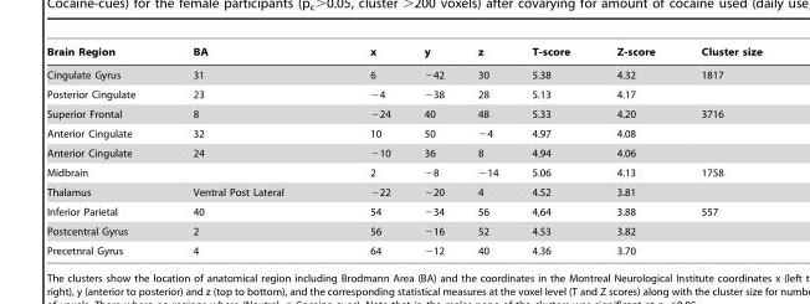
<table><thead><tr><td>Brain Region</td><td>BA</td><td>x</td><td>y</td><td>z</td><td>T-score</td><td>Z-score</td><td>Cluster size</td></tr></thead><tbody><tr><td>Cingulate Gyrus</td><td>31</td><td>6</td><td>−42</td><td>30</td><td>5.38</td><td>4.32</td><td>1817</td></tr><tr><td>Posterior Cingulate</td><td>23</td><td>−4</td><td>−38</td><td>28</td><td>5.13</td><td>4.17</td><td></td></tr><tr><td>Superior Frontal</td><td>8</td><td>−24</td><td>40</td><td>48</td><td>5.33</td><td>4.20</td><td>3716</td></tr><tr><td>Anterior Cingulate</td><td>32</td><td>10</td><td>50</td><td>−4</td><td>4.97</td><td>4.08</td><td></td></tr><tr><td>Anterior Cingulate</td><td>24</td><td>−10</td><td>36</td><td>8</td><td>4.94</td><td>4.06</td><td></td></tr><tr><td>Midbrain</td><td></td><td>2</td><td>−8</td><td>−14</td><td>5.06</td><td>4.13</td><td>1758</td></tr><tr><td>Thalamus</td><td>Ventral Post Lateral</td><td>−22</td><td>−20</td><td>4</td><td>4.52</td><td>3.81</td><td></td></tr><tr><td>Inferior Parietal</td><td>40</td><td>54</td><td>−34</td><td>56</td><td>4,64</td><td>3.88</td><td>557</td></tr><tr><td>Postcentral Gyrus</td><td>2</td><td>56</td><td>−16</td><td>52</td><td>4.53</td><td>3.82</td><td></td></tr><tr><td>Precetnral Gyrus</td><td>4</td><td>64</td><td>−12</td><td>40</td><td>4.36</td><td>3.70</td><td></td></tr></tbody></table>